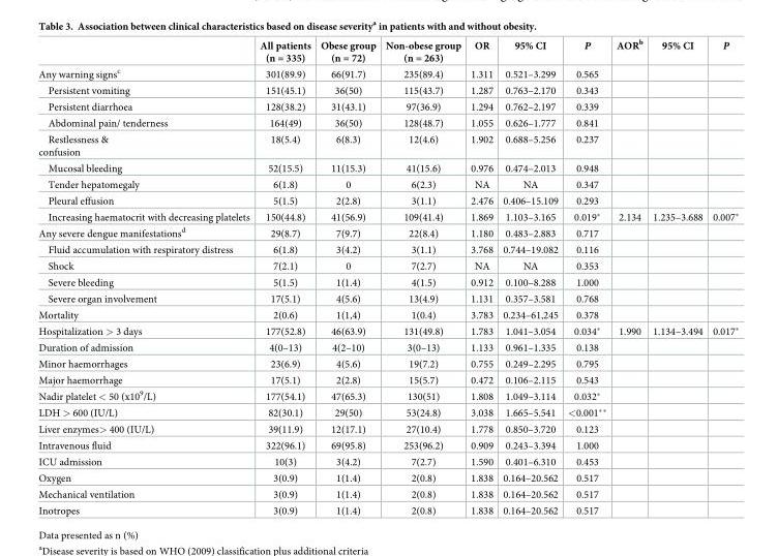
<table><thead><tr><td></td><td>All patients (n = 335)</td><td>Obese group (n = 72)</td><td>Non-obese group (n = 263)</td><td>OR</td><td>95% CI</td><td>P</td><td>AOR<sup>b</sup></td><td>95% CI</td><td>P</td></tr></thead><tbody><tr><td>Any warning signs<sup>c</sup></td><td>301(89.9)</td><td>66(91.7)</td><td>235(89.4)</td><td>1.311</td><td>0.521–3.299</td><td>0.565</td><td></td><td></td><td></td></tr><tr><td>Persistent vomiting</td><td>151(45.1)</td><td>36(50)</td><td>115(43.7)</td><td>1.287</td><td>0.763–2.170</td><td>0.343</td><td></td><td></td><td></td></tr><tr><td>Persistent diarrhoea</td><td>128(38.2)</td><td>31(43.1)</td><td>97(36.9)</td><td>1.294</td><td>0.762–2.197</td><td>0.339</td><td></td><td></td><td></td></tr><tr><td>Abdominal pain/ tenderness</td><td>164(49)</td><td>36(50)</td><td>128(48.7)</td><td>1.055</td><td>0.626–1.777</td><td>0.841</td><td></td><td></td><td></td></tr><tr><td>Restlessness &amp; confusion</td><td>18(5.4)</td><td>6(8.3)</td><td>12(4.6)</td><td>1.902</td><td>0.688–5.256</td><td>0.237</td><td></td><td></td><td></td></tr><tr><td>Mucosal bleeding</td><td>52(15.5)</td><td>11(15.3)</td><td>41(15.6)</td><td>0.976</td><td>0.474–2.013</td><td>0.948</td><td></td><td></td><td></td></tr><tr><td>Tender hepatomegaly</td><td>6(1.8)</td><td>0</td><td>6(2.3)</td><td>NA</td><td>NA</td><td>0.347</td><td></td><td></td><td></td></tr><tr><td>Pleural effusion</td><td>5(1.5)</td><td>2(2.8)</td><td>3(1.1)</td><td>2.476</td><td>0.406–15.109</td><td>0.293</td><td></td><td></td><td></td></tr><tr><td>Increasing haematocrit with decreasing platelets</td><td>150(44.8)</td><td>41(56.9)</td><td>109(41.4)</td><td>1.869</td><td>1.103–3.165</td><td>0.019*</td><td>2.134</td><td>1.235–3.688</td><td>0.007*</td></tr><tr><td>Any severe dengue manifestations<sup>d</sup></td><td>29(8.7)</td><td>7(9.7)</td><td>22(8.4)</td><td>1.180</td><td>0.483–2.883</td><td>0.717</td><td></td><td></td><td></td></tr><tr><td>Fluid accumulation with respiratory distress</td><td>6(1.8)</td><td>3(4.2)</td><td>3(1.1)</td><td>3.768</td><td>0.744–19.082</td><td>0.116</td><td></td><td></td><td></td></tr><tr><td>Shock</td><td>7(2.1)</td><td>0</td><td>7(2.7)</td><td>NA</td><td>NA</td><td>0.353</td><td></td><td></td><td></td></tr><tr><td>Severe bleeding</td><td>5(1.5)</td><td>1(1.4)</td><td>4(1.5)</td><td>0.912</td><td>0.100–8.288</td><td>1.000</td><td></td><td></td><td></td></tr><tr><td>Severe organ involvement</td><td>17(5.1)</td><td>4(5.6)</td><td>13(4.9)</td><td>1.131</td><td>0.357–3.581</td><td>0.768</td><td></td><td></td><td></td></tr><tr><td>Mortality</td><td>2(0.6)</td><td>1(1,4)</td><td>1(0.4)</td><td>3.783</td><td>0.234–61,245</td><td>0.378</td><td></td><td></td><td></td></tr><tr><td>Hospitalization &gt; 3 days</td><td>177(52.8)</td><td>46(63.9)</td><td>131(49.8)</td><td>1.783</td><td>1.041–3.054</td><td>0.034*</td><td>1.990</td><td>1.134–3.494</td><td>0.017*</td></tr><tr><td>Duration of admission</td><td>4(0–13)</td><td>4(2–10)</td><td>3(0–13)</td><td>1.133</td><td>0.961–1.335</td><td>0.138</td><td></td><td></td><td></td></tr><tr><td>Minor haemorrhages</td><td>23(6.9)</td><td>4(5.6)</td><td>19(7.2)</td><td>0.755</td><td>0.249–2.295</td><td>0.795</td><td></td><td></td><td></td></tr><tr><td>Major haemorrhage</td><td>17(5.1)</td><td>2(2.8)</td><td>15(5.7)</td><td>0.472</td><td>0.106–2.115</td><td>0.543</td><td></td><td></td><td></td></tr><tr><td>Nadir platelet &lt; 50 (x10<sup>9</sup>/L)</td><td>177(54.1)</td><td>47(65.3)</td><td>130(51)</td><td>1.808</td><td>1.049–3.114</td><td>0.032*</td><td></td><td></td><td></td></tr><tr><td>LDH &gt; 600 (IU/L)</td><td>82(30.1)</td><td>29(50)</td><td>53(24.8)</td><td>3.038</td><td>1.665–5.541</td><td>&lt;0.001**</td><td></td><td></td><td></td></tr><tr><td>Liver enzymes&gt; 400 (IU/L)</td><td>39(11.9)</td><td>12(17.1)</td><td>27(10.4)</td><td>1.778</td><td>0.850–3.720</td><td>0.123</td><td></td><td></td><td></td></tr><tr><td>Intravenous fluid</td><td>322(96.1)</td><td>69(95.8)</td><td>253(96.2)</td><td>0.909</td><td>0.243–3.394</td><td>1.000</td><td></td><td></td><td></td></tr><tr><td>ICU admission</td><td>10(3)</td><td>3(4.2)</td><td>7(2.7)</td><td>1.590</td><td>0.401–6.310</td><td>0.453</td><td></td><td></td><td></td></tr><tr><td>Oxygen</td><td>3(0.9)</td><td>1(1.4)</td><td>2(0.8)</td><td>1.838</td><td>0.164–20.562</td><td>0.517</td><td></td><td></td><td></td></tr><tr><td>Mechanical ventilation</td><td>3(0.9)</td><td>1(1.4)</td><td>2(0.8)</td><td>1.838</td><td>0.164–20.562</td><td>0.517</td><td></td><td></td><td></td></tr><tr><td>Inotropes</td><td>3(0.9)</td><td>1(1.4)</td><td>2(0.8)</td><td>1.838</td><td>0.164–20.562</td><td>0.517</td><td></td><td></td><td></td></tr></tbody></table>